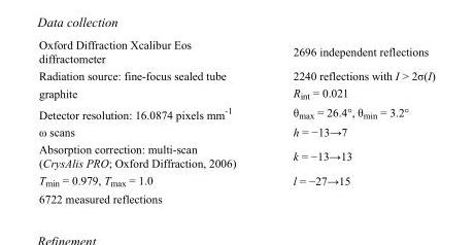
<table><tbody><tr><td>Oxford Diffraction Xcalibur Eos diffractometer</td><td>2696 independent reflections</td></tr><tr><td>Radiation source: fine-focus sealed tube</td><td>2240 reflections with I &gt; 2σ(I)</td></tr><tr><td>graphite</td><td>R<sub>int</sub> = 0.021</td></tr><tr><td>Detector resolution: 16.0874 pixels mm<sup>-1</sup></td><td>θ<sub>max</sub> = 26.4°, θ<sub>min</sub> = 3.2°</td></tr><tr><td>ω scans</td><td>h = −13→7</td></tr><tr><td>Absorption correction: multi-scan (CrysAlis PRO; Oxford Diffraction, 2006)</td><td>k = −13→13</td></tr><tr><td>T<sub>min</sub> = 0.979, T<sub>max</sub> = 1.0</td><td>l = −27→15</td></tr><tr><td>6722 measured reflections</td><td></td></tr></tbody></table>